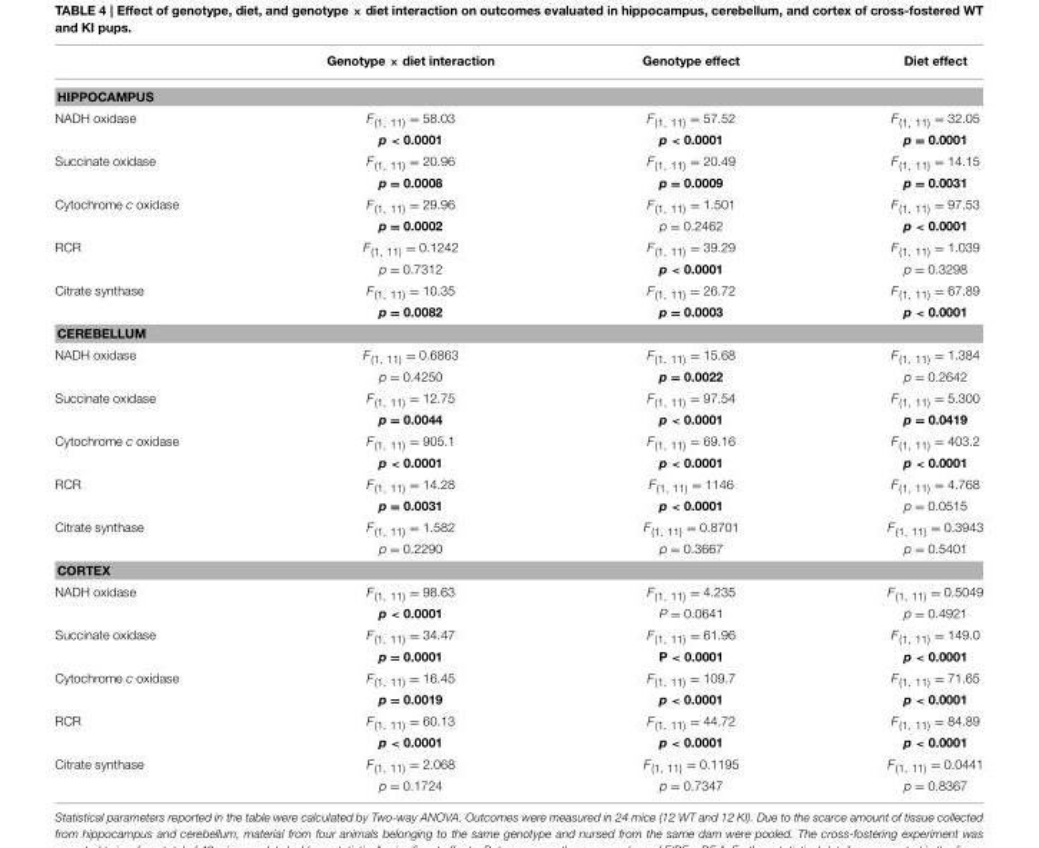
<table><thead><tr><td></td><td>Genotype × diet interaction</td><td>Genotype effect</td><td>Diet effect</td></tr></thead><tbody><tr><td colspan="4">HIPPOCAMPUS</td></tr><tr><td rowspan="2">NADH oxidase</td><td>F<sub>(1, 11)</sub> = 58.03</td><td>F<sub>(1, 11)</sub> = 57.52</td><td>F<sub>(1, 11)</sub> = 32.05</td></tr><tr><td>p &lt; 0.0001</td><td>p &lt; 0.0001</td><td>p = 0.0001</td></tr><tr><td rowspan="2">Succinate oxidase</td><td>F<sub>(1, 11)</sub> = 20.96</td><td>F<sub>(1, 11)</sub> = 20.49</td><td>F<sub>(1, 11)</sub> = 14.15</td></tr><tr><td>p = 0.0008</td><td>p = 0.0009</td><td>p = 0.0031</td></tr><tr><td rowspan="2">Cytochrome c oxidase</td><td>F<sub>(1, 11)</sub> = 29.96</td><td>F<sub>(1, 11)</sub> = 1.501</td><td>F<sub>(1, 11)</sub> = 97.53</td></tr><tr><td>p = 0.0002</td><td>p = 0.2462</td><td>p &lt; 0.0001</td></tr><tr><td rowspan="2">RCR</td><td>F<sub>(1, 11)</sub> = 0.1242</td><td>F<sub>(1, 11)</sub> = 39.29</td><td>F<sub>(1, 11)</sub> = 1.039</td></tr><tr><td>p = 0.7312</td><td>p &lt; 0.0001</td><td>p = 0.3298</td></tr><tr><td rowspan="2">Citrate synthase</td><td>F<sub>(1, 11)</sub> = 10.35</td><td>F<sub>(1, 11)</sub> = 26.72</td><td>F<sub>(1, 11)</sub> = 67.89</td></tr><tr><td>p = 0.0082</td><td>p = 0.0003</td><td>p &lt; 0.0001</td></tr><tr><td colspan="4">CEREBELLUM</td></tr><tr><td rowspan="2">NADH oxidase</td><td>F<sub>(1, 11)</sub> = 0.6863</td><td>F<sub>(1, 11)</sub> = 15.68</td><td>F<sub>(1, 11)</sub> = 1.384</td></tr><tr><td>p = 0.4250</td><td>p = 0.0022</td><td>p = 0.2642</td></tr><tr><td rowspan="2">Succinate oxidase</td><td>F<sub>(1, 11)</sub> = 12.75</td><td>F<sub>(1, 11)</sub> = 97.54</td><td>F<sub>(1, 11)</sub> = 5.300</td></tr><tr><td>p = 0.0044</td><td>p &lt; 0.0001</td><td>p = 0.0419</td></tr><tr><td rowspan="2">Cytochrome c oxidase</td><td>F<sub>(1, 11)</sub> = 905.1</td><td>F<sub>(1, 11)</sub> = 69.16</td><td>F<sub>(1, 11)</sub> = 403.2</td></tr><tr><td>p &lt; 0.0001</td><td>p &lt; 0.0001</td><td>p &lt; 0.0001</td></tr><tr><td rowspan="2">RCR</td><td>F<sub>(1, 11)</sub> = 14.28</td><td>F<sub>(1, 11)</sub> = 1146</td><td>F<sub>(1, 11)</sub> = 4.768</td></tr><tr><td>p = 0.0031</td><td>p &lt; 0.0001</td><td>p = 0.0515</td></tr><tr><td rowspan="2">Citrate synthase</td><td>F<sub>(1, 11)</sub> = 1.582</td><td>F<sub>(1, 11)</sub> = 0.8701</td><td>F<sub>(1, 11)</sub> = 0.3943</td></tr><tr><td>p = 0.2290</td><td>p = 0.3667</td><td>p = 0.5401</td></tr><tr><td colspan="4">CORTEX</td></tr><tr><td rowspan="2">NADH oxidase</td><td>F<sub>(1, 11)</sub> = 98.63</td><td>F<sub>(1, 11)</sub> = 4.235</td><td>F<sub>(1, 11)</sub> = 0.5049</td></tr><tr><td>p &lt; 0.0001</td><td>P = 0.0641</td><td>p = 0.4921</td></tr><tr><td rowspan="2">Succinate oxidase</td><td>F<sub>(1, 11)</sub> = 34.47</td><td>F<sub>(1, 11)</sub> = 61.96</td><td>F<sub>(1, 11)</sub> = 149.0</td></tr><tr><td>p = 0.0001</td><td>P &lt; 0.0001</td><td>p &lt; 0.0001</td></tr><tr><td rowspan="2">Cytochrome c oxidase</td><td>F<sub>(1, 11)</sub> = 16.45</td><td>F<sub>(1, 11)</sub> = 109.7</td><td>F<sub>(1, 11)</sub> = 71.65</td></tr><tr><td>p = 0.0019</td><td>p &lt; 0.0001</td><td>p &lt; 0.0001</td></tr><tr><td rowspan="2">RCR</td><td>F<sub>(1, 11)</sub> = 60.13</td><td>F<sub>(1, 11)</sub> = 44.72</td><td>F<sub>(1, 11)</sub> = 84.89</td></tr><tr><td>p &lt; 0.0001</td><td>p &lt; 0.0001</td><td>p &lt; 0.0001</td></tr><tr><td rowspan="2">Citrate synthase</td><td>F<sub>(1, 11)</sub> = 2.068</td><td>F<sub>(1, 11)</sub> = 0.1195</td><td>F<sub>(1, 11)</sub> = 0.0441</td></tr><tr><td>p = 0.1724</td><td>p = 0.7347</td><td>p = 0.8367</td></tr></tbody></table>